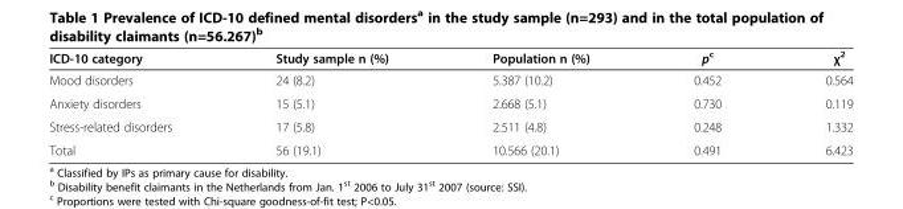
<table><thead><tr><td>ICD-10 category</td><td>Study sample n (%)</td><td>Population n (%)</td><td>p<sup>c</sup></td><td>χ<sup>2</sup></td></tr></thead><tbody><tr><td>Mood disorders</td><td>24 (8.2)</td><td>5.387 (10.2)</td><td>0.452</td><td>0.564</td></tr><tr><td>Anxiety disorders</td><td>15 (5.1)</td><td>2.668 (5.1)</td><td>0.730</td><td>0.119</td></tr><tr><td>Stress-related disorders</td><td>17 (5.8)</td><td>2.511 (4.8)</td><td>0.248</td><td>1.332</td></tr><tr><td>Total</td><td>56 (19.1)</td><td>10.566 (20.1)</td><td>0.491</td><td>6.423</td></tr></tbody></table>